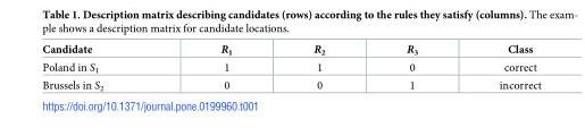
<table><thead><tr><td>Candidate</td><td>R<sub>1</sub></td><td>R<sub>2</sub></td><td>R<sub>3</sub></td><td>Class</td></tr></thead><tbody><tr><td>Poland in S<sub>1</sub></td><td>1</td><td>1</td><td>0</td><td>correct</td></tr><tr><td>Brussels in S<sub>2</sub></td><td>0</td><td>0</td><td>1</td><td>incorrect</td></tr></tbody></table>